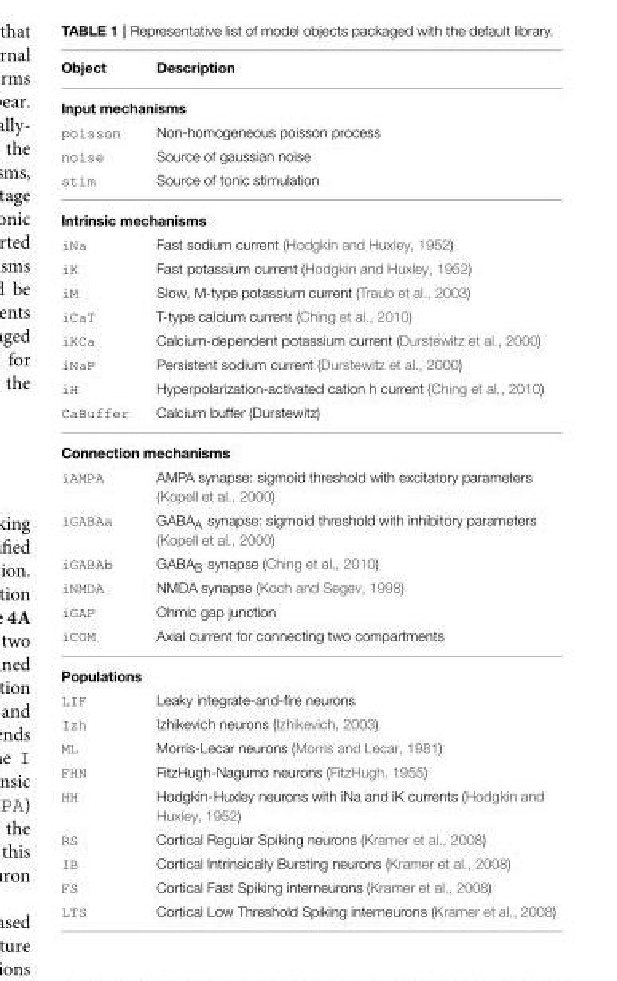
<table><thead><tr><td>Object</td><td>Description</td></tr></thead><tbody><tr><td colspan="2">Input mechanisms</td></tr><tr><td>poisson</td><td>Non-homogeneous poisson process</td></tr><tr><td>noise</td><td>Source of gaussian noise</td></tr><tr><td>stim</td><td>Source of tonic stimulation</td></tr><tr><td colspan="2">Intrinsic mechanisms</td></tr><tr><td>iNa</td><td>Fast sodium current (Hodgkin and Huxley, 1952)</td></tr><tr><td>iK</td><td>Fast potassium current (Hodgkin and Huxley, 1952)</td></tr><tr><td>iM</td><td>Slow, M-type potassium current (Traub et al., 2003)</td></tr><tr><td>iCaT</td><td>T-type calcium current (Ching et al., 2010)</td></tr><tr><td>iKCa</td><td>Calcium-dependent potassium current (Durstewitz et al., 2000)</td></tr><tr><td>iNaP</td><td>Persistent sodium current (Durstewitz et al., 2000)</td></tr><tr><td>iH</td><td>Hyperpolarization-activated cation h current (Ching et al., 2010)</td></tr><tr><td>CaBuffer</td><td>Calcium buffer (Durstewitz)</td></tr><tr><td colspan="2">Connection mechanisms</td></tr><tr><td>iAMPA</td><td>AMPA synapse: sigmoid threshold with excitatory parameters (Kopell et al., 2000)</td></tr><tr><td>iGABAa</td><td>GABA<sub>A</sub> synapse: sigmoid threshold with inhibitory parameters (Kopell et al., 2000)</td></tr><tr><td>iGABAb</td><td>GABA<sub>B</sub> synapse (Ching et al., 2010)</td></tr><tr><td>iNMDA</td><td>NMDA synapse (Koch and Segev, 1998)</td></tr><tr><td>iGAP</td><td>Ohmic gap junction</td></tr><tr><td>iCOM</td><td>Axial current for connecting two compartments</td></tr><tr><td colspan="2">Populations</td></tr><tr><td>LIF</td><td>Leaky integrate-and-fire neurons</td></tr><tr><td>Izh</td><td>Izhikevich neurons (Izhikevich, 2003)</td></tr><tr><td>ML</td><td>Morris-Lecar neurons (Morris and Lecar, 1981)</td></tr><tr><td>FHN</td><td>FitzHugh-Nagumo neurons (FitzHugh, 1955)</td></tr><tr><td>HH</td><td>Hodgkin-Huxley neurons with iNa and iK currents (Hodgkin and Huxley, 1952)</td></tr><tr><td>RS</td><td>Cortical Regular Spiking neurons (Kramer et al., 2008)</td></tr><tr><td>IB</td><td>Cortical Intrinsically Bursting neurons (Kramer et al., 2008)</td></tr><tr><td>FS</td><td>Cortical Fast Spiking interneurons (Kramer et al., 2008)</td></tr><tr><td>LTS</td><td>Cortical Low Threshold Spiking interneurons (Kramer et al., 2008)</td></tr></tbody></table>